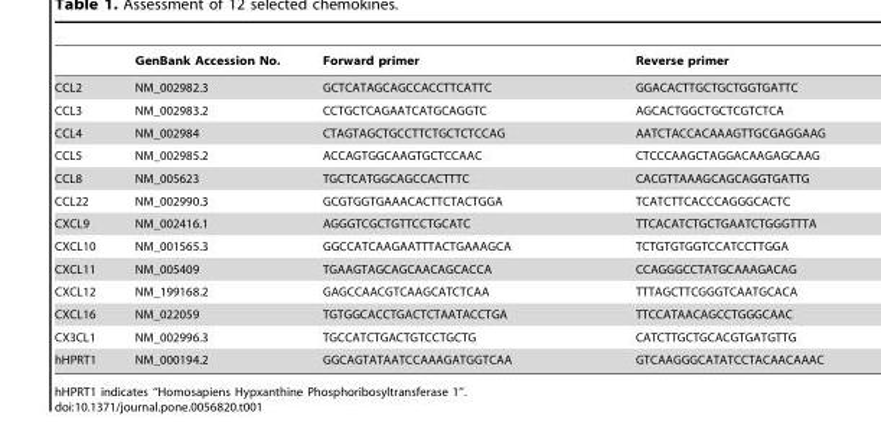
<table><thead><tr><td></td><td>GenBank Accession No.</td><td>Forward primer</td><td>Reverse primer</td></tr></thead><tbody><tr><td>CCL2</td><td>NM_002982.3</td><td>GCTCATAGCAGCCACCTTCATTC</td><td>GGACACTTGCTGCTGGTGATTC</td></tr><tr><td>CCL3</td><td>NM_002983.2</td><td>CCTGCTCAGAATCATGCAGGTC</td><td>AGCACTGGCTGCTCGTCTCA</td></tr><tr><td>CCL4</td><td>NM_002984</td><td>CTAGTAGCTGCCTTCTGCTCTCCAG</td><td>AATCTACCACAAAGTTGCGAGGAAG</td></tr><tr><td>CCL5</td><td>NM_002985.2</td><td>ACCAGTGGCAAGTGCTCCAAC</td><td>CTCCCAAGCTAGGACAAGAGCAAG</td></tr><tr><td>CCL8</td><td>NM_005623</td><td>TGCTCATGGCAGCCACTTTC</td><td>CACGTTAAAGCAGCAGGTGATTG</td></tr><tr><td>CCL22</td><td>NM_002990.3</td><td>GCGTGGTGAAACACTTCTACTGGA</td><td>TCATCTTCACCCAGGGCACTC</td></tr><tr><td>CXCL9</td><td>NM_002416.1</td><td>AGGGTCGCTGTTCCTGCATC</td><td>TTCACATCTGCTGAATCTGGGTTTA</td></tr><tr><td>CXCL10</td><td>NM_001565.3</td><td>GGCCATCAAGAATTTACTGAAAGCA</td><td>TCTGTGTGGTCCATCCTTGGA</td></tr><tr><td>CXCL11</td><td>NM_005409</td><td>TGAAGTAGCAGCAACAGCACCA</td><td>CCAGGGCCTATGCAAAGACAG</td></tr><tr><td>CXCL12</td><td>NM_199168.2</td><td>GAGCCAACGTCAAGCATCTCAA</td><td>TTTAGCTTCGGGTCAATGCACA</td></tr><tr><td>CXCL16</td><td>NM_022059</td><td>TGTGGCACCTGACTCTAATACCTGA</td><td>TTCCATAACAGCCTGGGCAAC</td></tr><tr><td>CX3CL1</td><td>NM_002996.3</td><td>TGCCATCTGACTGTCCTGCTG</td><td>CATCTTGCTGCACGTGATGTTG</td></tr><tr><td>hHPRT1</td><td>NM_000194.2</td><td>GGCAGTATAATCCAAAGATGGTCAA</td><td>GTCAAGGGCATATCCTACAACAAAC</td></tr></tbody></table>